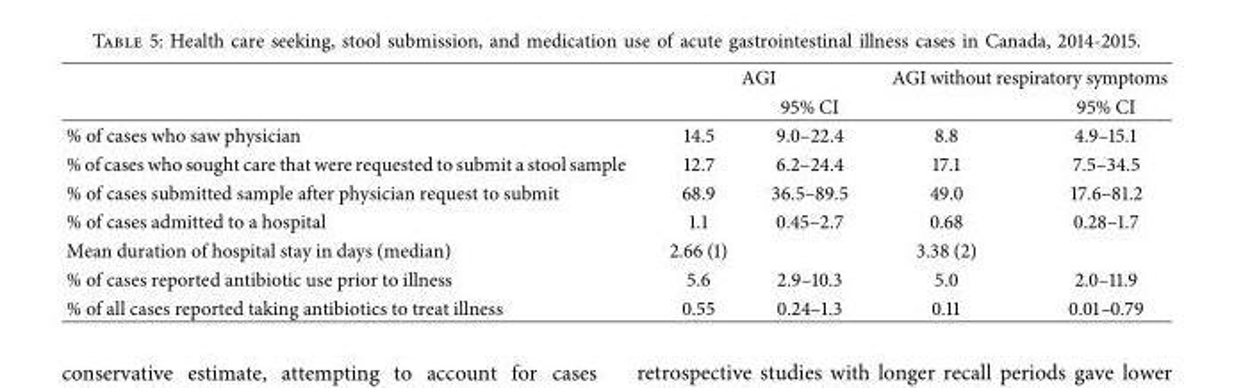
<table><thead><tr><td rowspan="2"></td><td colspan="2">AGI</td><td colspan="2">AGI without respiratory symptoms</td></tr><tr><td></td><td>95% CI</td><td></td><td>95% CI</td></tr></thead><tbody><tr><td>% of cases who saw physician</td><td>14.5</td><td>9.0–22.4</td><td>8.8</td><td>4.9–15.1</td></tr><tr><td>% of cases who sought care that were requested to submit a stool sample</td><td>12.7</td><td>6.2–24.4</td><td>17.1</td><td>7.5–34.5</td></tr><tr><td>% of cases submitted sample after physician request to submit</td><td>68.9</td><td>36.5–89.5</td><td>49.0</td><td>17.6–81.2</td></tr><tr><td>% of cases admitted to a hospital</td><td>1.1</td><td>0.45–2.7</td><td>0.68</td><td>0.28–1.7</td></tr><tr><td>Mean duration of hospital stay in days (median)</td><td>2.66 (1)</td><td></td><td>3.38 (2)</td><td></td></tr><tr><td>% of cases reported antibiotic use prior to illness</td><td>5.6</td><td>2.9–10.3</td><td>5.0</td><td>2.0–11.9</td></tr><tr><td>% of all cases reported taking antibiotics to treat illness</td><td>0.55</td><td>0.24–1.3</td><td>0.11</td><td>0.01–0.79</td></tr></tbody></table>